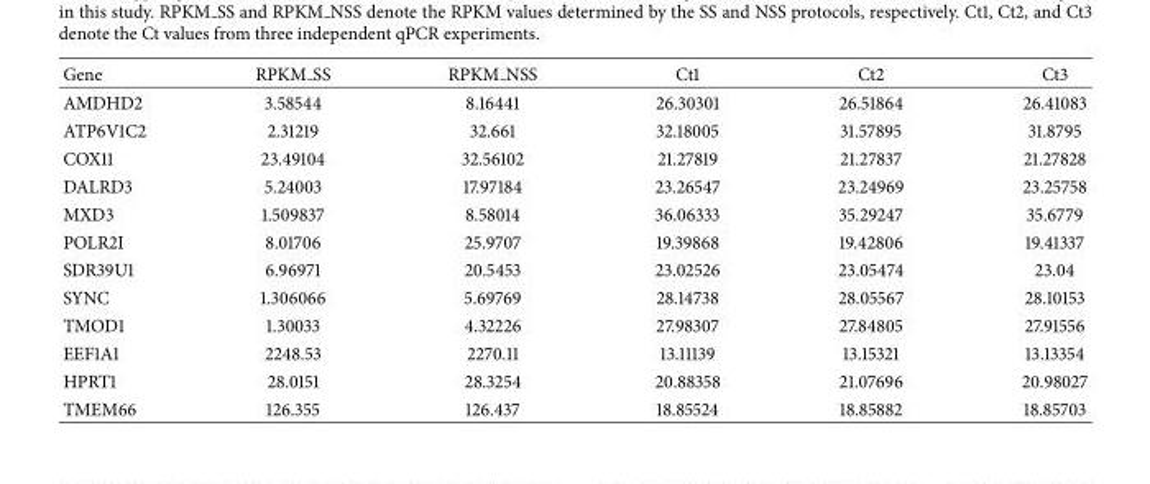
<table><thead><tr><td>Gene</td><td>RPKM SS</td><td>RPKM NSS</td><td>Ct1</td><td>Ct2</td><td>Ct3</td></tr></thead><tbody><tr><td>AMDHD2</td><td>3.58544</td><td>8.16441</td><td>26.30301</td><td>26.51864</td><td>26.41083</td></tr><tr><td>ATP6V1C2</td><td>2.31219</td><td>32.661</td><td>32.18005</td><td>31.57895</td><td>31.8795</td></tr><tr><td>COX11</td><td>23.49104</td><td>32.56102</td><td>21.27819</td><td>21.27837</td><td>21.27828</td></tr><tr><td>DALRD3</td><td>5.24003</td><td>17.97184</td><td>23.26547</td><td>23.24969</td><td>23.25758</td></tr><tr><td>MXD3</td><td>1.509837</td><td>8.58014</td><td>36.06333</td><td>35.29247</td><td>35.6779</td></tr><tr><td>POLR2I</td><td>8.01706</td><td>25.9707</td><td>19.39868</td><td>19.42806</td><td>19.41337</td></tr><tr><td>SDR39U1</td><td>6.96971</td><td>20.5453</td><td>23.02526</td><td>23.05474</td><td>23.04</td></tr><tr><td>SYNC</td><td>1.306066</td><td>5.69769</td><td>28.14738</td><td>28.05567</td><td>28.10153</td></tr><tr><td>TMOD1</td><td>1.30033</td><td>4.32226</td><td>27.98307</td><td>27.84805</td><td>27.91556</td></tr><tr><td>EEF1A1</td><td>2248.53</td><td>2270.11</td><td>13.11139</td><td>13.15321</td><td>13.13354</td></tr><tr><td>HPRT1</td><td>28.0151</td><td>28.3254</td><td>20.88358</td><td>21.07696</td><td>20.98027</td></tr><tr><td>TMEM66</td><td>126.355</td><td>126.437</td><td>18.85524</td><td>18.85882</td><td>18.85703</td></tr></tbody></table>